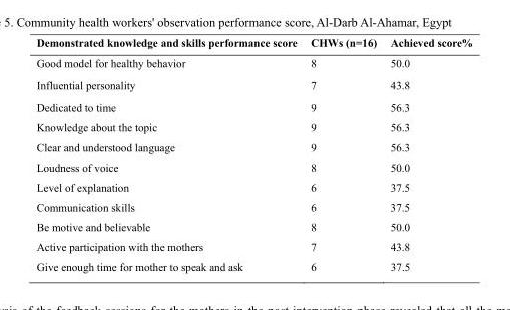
<table><thead><tr><td>Demonstrated knowledge and skills performance score</td><td>CHWs (n=16)</td><td>Achieved score%</td></tr></thead><tbody><tr><td>Good model for healthy behavior</td><td>8</td><td>50.0</td></tr><tr><td>Influential personality</td><td>7</td><td>43.8</td></tr><tr><td>Dedicated to time</td><td>9</td><td>56.3</td></tr><tr><td>Knowledge about the topic</td><td>9</td><td>56.3</td></tr><tr><td>Clear and understood language</td><td>9</td><td>56.3</td></tr><tr><td>Loudness of voice</td><td>8</td><td>50.0</td></tr><tr><td>Level of explanation</td><td>6</td><td>37.5</td></tr><tr><td>Communication skills</td><td>6</td><td>37.5</td></tr><tr><td>Be motive and believable</td><td>8</td><td>50.0</td></tr><tr><td>Active participation with the mothers</td><td>7</td><td>43.8</td></tr><tr><td>Give enough time for mother to speak and ask</td><td>6</td><td>37.5</td></tr></tbody></table>